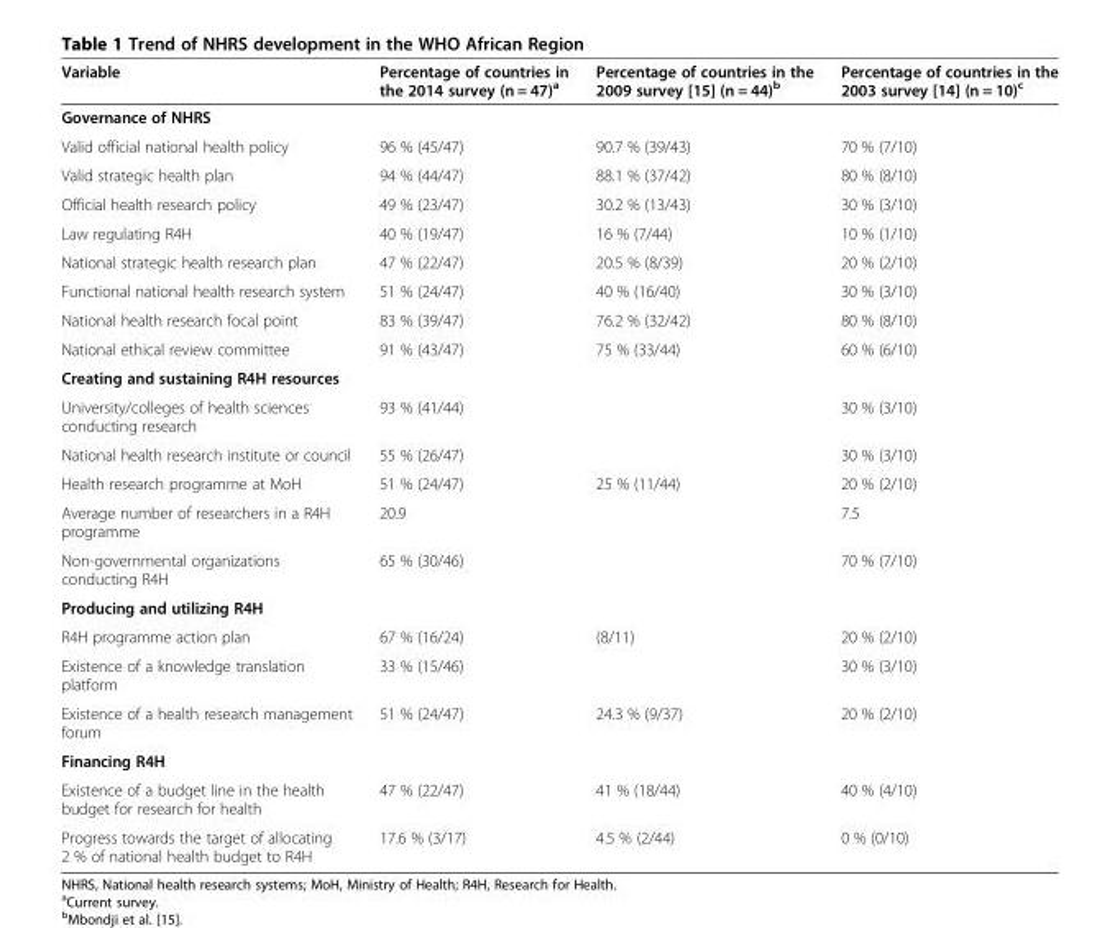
<table><thead><tr><td>Variable</td><td>Percentage of countries in the 2014 survey (n = 47)<sup>a</sup></td><td>Percentage of countries in the 2009 survey [15] (n = 44)<sup>b</sup></td><td>Percentage of countries in the 2003 survey [14] (n = 10)<sup>c</sup></td></tr></thead><tbody><tr><td colspan="4">Governance of NHRS</td></tr><tr><td>Valid official national health policy</td><td>96 % (45/47)</td><td>90.7 % (39/43)</td><td>70 % (7/10)</td></tr><tr><td>Valid strategic health plan</td><td>94 % (44/47)</td><td>88.1 % (37/42)</td><td>80 % (8/10)</td></tr><tr><td>Official health research policy</td><td>49 % (23/47)</td><td>30.2 % (13/43)</td><td>30 % (3/10)</td></tr><tr><td>Law regulating R4H</td><td>40 % (19/47)</td><td>16 % (7/44)</td><td>10 % (1/10)</td></tr><tr><td>National strategic health research plan</td><td>47 % (22/47)</td><td>20.5 % (8/39)</td><td>20 % (2/10)</td></tr><tr><td>Functional national health research system</td><td>51 % (24/47)</td><td>40 % (16/40)</td><td>30 % (3/10)</td></tr><tr><td>National health research focal point</td><td>83 % (39/47)</td><td>76.2 % (32/42)</td><td>80 % (8/10)</td></tr><tr><td>National ethical review committee</td><td>91 % (43/47)</td><td>75 % (33/44)</td><td>60 % (6/10)</td></tr><tr><td colspan="4">Creating and sustaining R4H resources</td></tr><tr><td>University/colleges of health sciences conducting research</td><td>93 % (41/44)</td><td></td><td>30 % (3/10)</td></tr><tr><td>National health research institute or council</td><td>55 % (26/47)</td><td></td><td>30 % (3/10)</td></tr><tr><td>Health research programme at MoH</td><td>51 % (24/47)</td><td>25 % (11/44)</td><td>20 % (2/10)</td></tr><tr><td>Average number of researchers in a R4H programme</td><td>20.9</td><td></td><td>7.5</td></tr><tr><td>Non-governmental organizations conducting R4H</td><td>65 % (30/46)</td><td></td><td>70 % (7/10)</td></tr><tr><td colspan="4">Producing and utilizing R4H</td></tr><tr><td>R4H programme action plan</td><td>67 % (16/24)</td><td>(8/11)</td><td>20 % (2/10)</td></tr><tr><td>Existence of a knowledge translation platform</td><td>33 % (15/46)</td><td></td><td>30 % (3/10)</td></tr><tr><td>Existence of a health research management forum</td><td>51 % (24/47)</td><td>24.3 % (9/37)</td><td>20 % (2/10)</td></tr><tr><td colspan="4">Financing R4H</td></tr><tr><td>Existence of a budget line in the health budget for research for health</td><td>47 % (22/47)</td><td>41 % (18/44)</td><td>40 % (4/10)</td></tr><tr><td>Progress towards the target of allocating 2 % of national health budget to R4H</td><td>17.6 % (3/17)</td><td>4.5 % (2/44)</td><td>0 % (0/10)</td></tr></tbody></table>